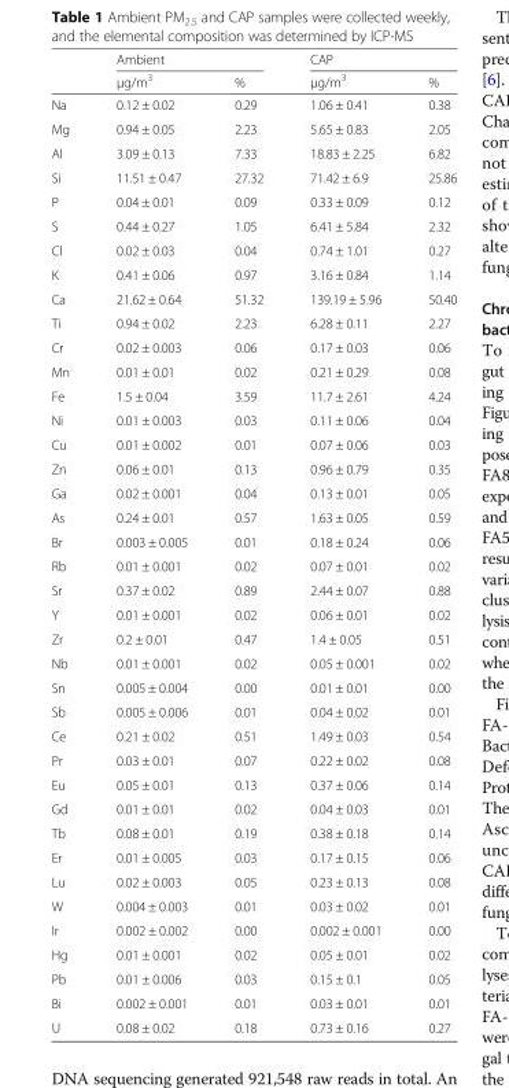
<table><thead><tr><td rowspan="2"></td><td colspan="2">Ambient</td><td colspan="2">CAP</td></tr><tr><td>μg/m<sup>3</sup></td><td>%</td><td>μg/m<sup>3</sup></td><td>%</td></tr></thead><tbody><tr><td>Na</td><td>0.12 ± 0.02</td><td>0.29</td><td>1.06 ± 0.41</td><td>0.38</td></tr><tr><td>Mg</td><td>0.94 ± 0.05</td><td>2.23</td><td>5.65 ± 0.83</td><td>2.05</td></tr><tr><td>Al</td><td>3.09 ± 0.13</td><td>7.33</td><td>18.83 ± 2.25</td><td>6.82</td></tr><tr><td>Si</td><td>11.51 ± 0.47</td><td>27.32</td><td>71.42 ± 6.9</td><td>25.86</td></tr><tr><td>P</td><td>0.04 ± 0.01</td><td>0.09</td><td>0.33 ± 0.09</td><td>0.12</td></tr><tr><td>S</td><td>0.44 ± 0.27</td><td>1.05</td><td>6.41 ± 5.84</td><td>2.32</td></tr><tr><td>Cl</td><td>0.02 ± 0.03</td><td>0.04</td><td>0.74 ± 1.01</td><td>0.27</td></tr><tr><td>K</td><td>0.41 ± 0.06</td><td>0.97</td><td>3.16 ± 0.84</td><td>1.14</td></tr><tr><td>Ca</td><td>21.62 ± 0.64</td><td>51.32</td><td>139.19 ± 5.96</td><td>50.40</td></tr><tr><td>Ti</td><td>0.94 ± 0.02</td><td>2.23</td><td>6.28 ± 0.11</td><td>2.27</td></tr><tr><td>Cr</td><td>0.02 ± 0.003</td><td>0.06</td><td>0.17 ± 0.03</td><td>0.06</td></tr><tr><td>Mn</td><td>0.01 ± 0.01</td><td>0.02</td><td>0.21 ± 0.29</td><td>0.08</td></tr><tr><td>Fe</td><td>1.5 ± 0.04</td><td>3.59</td><td>11.7 ± 2.61</td><td>4.24</td></tr><tr><td>Ni</td><td>0.01 ± 0.003</td><td>0.03</td><td>0.11 ± 0.06</td><td>0.04</td></tr><tr><td>Cu</td><td>0.01 ± 0.002</td><td>0.01</td><td>0.07 ± 0.06</td><td>0.03</td></tr><tr><td>Zn</td><td>0.06 ± 0.01</td><td>0.13</td><td>0.96 ± 0.79</td><td>0.35</td></tr><tr><td>Ga</td><td>0.02 ± 0.001</td><td>0.04</td><td>0.13 ± 0.01</td><td>0.05</td></tr><tr><td>As</td><td>0.24 ± 0.01</td><td>0.57</td><td>1.63 ± 0.05</td><td>0.59</td></tr><tr><td>Br</td><td>0.003 ± 0.005</td><td>0.01</td><td>0.18 ± 0.24</td><td>0.06</td></tr><tr><td>Rb</td><td>0.01 ± 0.001</td><td>0.02</td><td>0.07 ± 0.01</td><td>0.02</td></tr><tr><td>Sr</td><td>0.37 ± 0.02</td><td>0.89</td><td>2.44 ± 0.07</td><td>0.88</td></tr><tr><td>Y</td><td>0.01 ± 0.001</td><td>0.02</td><td>0.06 ± 0.01</td><td>0.02</td></tr><tr><td>Zr</td><td>0.2 ± 0.01</td><td>0.47</td><td>1.4 ± 0.05</td><td>0.51</td></tr><tr><td>Nb</td><td>0.01 ± 0.001</td><td>0.02</td><td>0.05 ± 0.001</td><td>0.02</td></tr><tr><td>Sn</td><td>0.005 ± 0.004</td><td>0.00</td><td>0.01 ± 0.01</td><td>0.00</td></tr><tr><td>Sb</td><td>0.005 ± 0.006</td><td>0.01</td><td>0.04 ± 0.02</td><td>0.01</td></tr><tr><td>Ce</td><td>0.21 ± 0.02</td><td>0.51</td><td>1.49 ± 0.03</td><td>0.54</td></tr><tr><td>Pr</td><td>0.03 ± 0.01</td><td>0.07</td><td>0.22 ± 0.02</td><td>0.08</td></tr><tr><td>Eu</td><td>0.05 ± 0.01</td><td>0.13</td><td>0.37 ± 0.06</td><td>0.14</td></tr><tr><td>Gd</td><td>0.01 ± 0.01</td><td>0.02</td><td>0.04 ± 0.03</td><td>0.01</td></tr><tr><td>Tb</td><td>0.08 ± 0.01</td><td>0.19</td><td>0.38 ± 0.18</td><td>0.14</td></tr><tr><td>Er</td><td>0.01 ± 0.005</td><td>0.03</td><td>0.17 ± 0.15</td><td>0.06</td></tr><tr><td>Lu</td><td>0.02 ± 0.003</td><td>0.05</td><td>0.23 ± 0.13</td><td>0.08</td></tr><tr><td>W</td><td>0.004 ± 0.003</td><td>0.01</td><td>0.03 ± 0.02</td><td>0.01</td></tr><tr><td>Ir</td><td>0.002 ± 0.002</td><td>0.00</td><td>0.002 ± 0.001</td><td>0.00</td></tr><tr><td>Hg</td><td>0.01 ± 0.001</td><td>0.02</td><td>0.05 ± 0.01</td><td>0.02</td></tr><tr><td>Pb</td><td>0.01 ± 0.006</td><td>0.03</td><td>0.15 ± 0.1</td><td>0.05</td></tr><tr><td>Bi</td><td>0.002 ± 0.001</td><td>0.01</td><td>0.03 ± 0.01</td><td>0.01</td></tr><tr><td>U</td><td>0.08 ± 0.02</td><td>0.18</td><td>0.73 ± 0.16</td><td>0.27</td></tr></tbody></table>